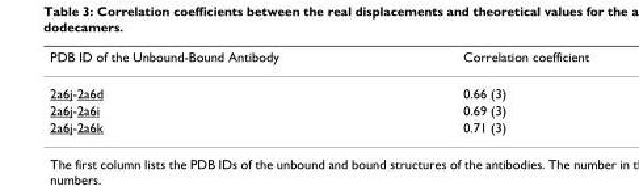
<table><thead><tr><td>PDB ID of the Unbound-Bound Antibody</td><td>Correlation coefficient</td></tr></thead><tbody><tr><td>2a6j-2a6d</td><td>0.66 (3)</td></tr><tr><td>2a6j-2a6i</td><td>0.69 (3)</td></tr><tr><td>2a6j-2a6k</td><td>0.71 (3)</td></tr></tbody></table>